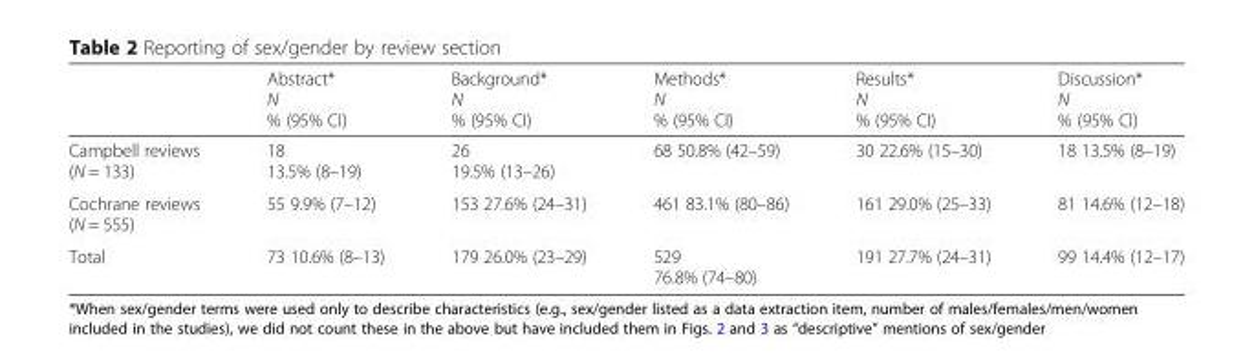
<table><thead><tr><td></td><td>Abstract* N % (95% CI)</td><td>Background* N % (95% CI)</td><td>Methods* N % (95% CI)</td><td>Results* N % (95% CI)</td><td>Discussion* N % (95% CI)</td></tr></thead><tbody><tr><td>Campbell reviews (N = 133)</td><td>18 13.5% (8–19)</td><td>26 19.5% (13–26)</td><td>68 50.8% (42–59)</td><td>30 22.6% (15–30)</td><td>18 13.5% (8–19)</td></tr><tr><td>Cochrane reviews (N = 555)</td><td>55 9.9% (7–12)</td><td>153 27.6% (24–31)</td><td>461 83.1% (80–86)</td><td>161 29.0% (25–33)</td><td>81 14.6% (12–18)</td></tr><tr><td>Total</td><td>73 10.6% (8–13)</td><td>179 26.0% (23–29)</td><td>529 76.8% (74–80)</td><td>191 27.7% (24–31)</td><td>99 14.4% (12–17)</td></tr></tbody></table>